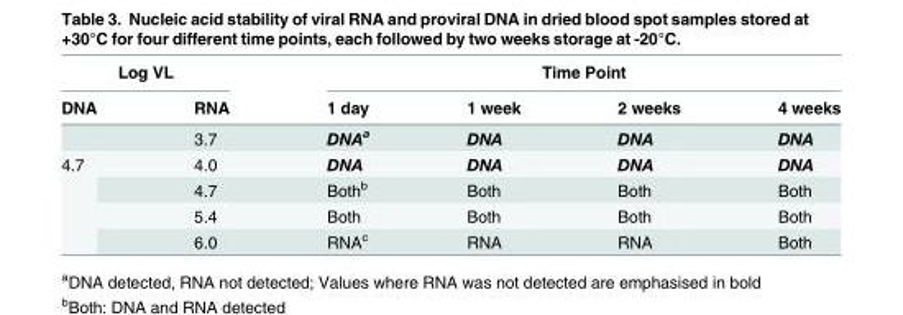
<table><thead><tr><td colspan="2">Log VL</td><td colspan="4">Time Point</td></tr><tr><td>DNA</td><td>RNA</td><td>1 day</td><td>1 week</td><td>2 weeks</td><td>4 weeks</td></tr></thead><tbody><tr><td></td><td>3.7</td><td>DNA<sup>a</sup></td><td>DNA</td><td>DNA</td><td>DNA</td></tr><tr><td rowspan="4">4.7</td><td>4.0</td><td>DNA</td><td>DNA</td><td>DNA</td><td>DNA</td></tr><tr><td>4.7</td><td>Both<sup>b</sup></td><td>Both</td><td>Both</td><td>Both</td></tr><tr><td>5.4</td><td>Both</td><td>Both</td><td>Both</td><td>Both</td></tr><tr><td>6.0</td><td>RNA<sup>c</sup></td><td>RNA</td><td>RNA</td><td>Both</td></tr></tbody></table>